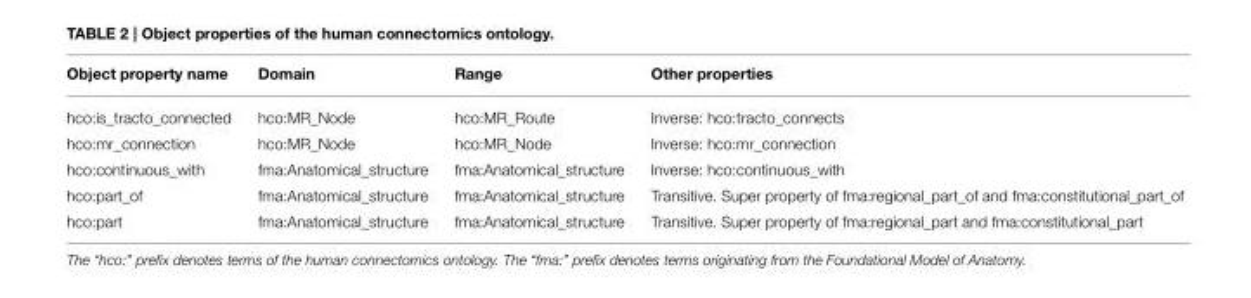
<table><thead><tr><td>Object property name</td><td>Domain</td><td>Range</td><td>Other properties</td></tr></thead><tbody><tr><td>hco:is_tracto_connected</td><td>hco:MR_Node</td><td>hco:MR_Route</td><td>Inverse: hco:tracto_connects</td></tr><tr><td>hco:mr_connection</td><td>hco:MR_Node</td><td>hco:MR_Node</td><td>Inverse: hco:mr_connection</td></tr><tr><td>hco:continuous_with</td><td>fma:Anatomical_structure</td><td>fma:Anatomical_structure</td><td>Inverse: hco:continuous_with</td></tr><tr><td>hco:part_of</td><td>fma:Anatomical_structure</td><td>fma:Anatomical_structure</td><td>Transitive. Super property of fma:regional_part_of and fma:constitutional_part_of</td></tr><tr><td>hco:part</td><td>fma:Anatomical_structure</td><td>fma:Anatomical_structure</td><td>Transitive. Super property of fma:regional_part and fma:constitutional_part</td></tr></tbody></table>